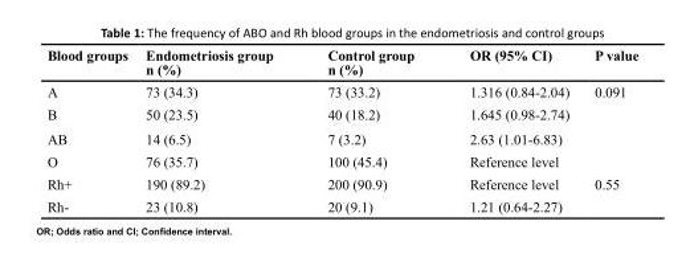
<table><thead><tr><td>Blood groups</td><td>Endometriosis group n (%)</td><td>Control group n (%)</td><td>OR (95% CI)</td><td>P value</td></tr></thead><tbody><tr><td>A</td><td>73 (34.3)</td><td>73 (33.2)</td><td>1.316 (0.84-2.04)</td><td rowspan="4">0.091</td></tr><tr><td>B</td><td>50 (23.5)</td><td>40 (18.2)</td><td>1.645 (0.98-2.74)</td></tr><tr><td>AB</td><td>14 (6.5)</td><td>7 (3.2)</td><td>2.63 (1.01-6.83)</td></tr><tr><td>O</td><td>76 (35.7)</td><td>100 (45.4)</td><td>Reference level</td></tr><tr><td>Rh+</td><td>190 (89.2)</td><td>200 (90.9)</td><td>Reference level</td><td rowspan="2">0.55</td></tr><tr><td>Rh-</td><td>23 (10.8)</td><td>20 (9.1)</td><td>1.21 (0.64-2.27)</td></tr></tbody></table>